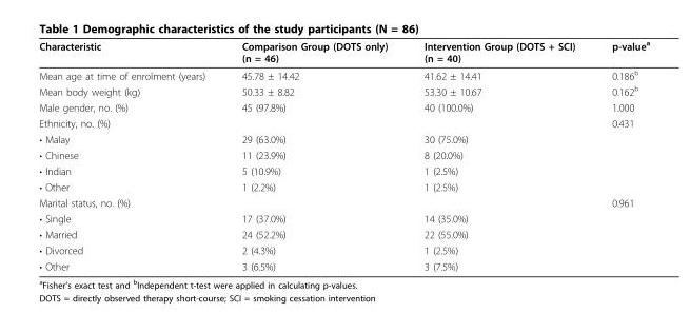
<table><thead><tr><td>Characteristic</td><td>Comparison Group (DOTS only) (n = 46)</td><td>Intervention Group (DOTS + SCI) (n = 40)</td><td>p-value<sup>a</sup></td></tr></thead><tbody><tr><td>Mean age at time of enrolment (years)</td><td>45.78 ± 14.42</td><td>41.62 ± 14.41</td><td>0.186<sup>b</sup></td></tr><tr><td>Mean body weight (kg)</td><td>50.33 ± 8.82</td><td>53.30 ± 10.67</td><td>0.162<sup>b</sup></td></tr><tr><td>Male gender, no. (%)</td><td>45 (97.8%)</td><td>40 (100.0%)</td><td>1.000</td></tr><tr><td>Ethnicity, no. (%)</td><td></td><td></td><td>0.431</td></tr><tr><td>• Malay</td><td>29 (63.0%)</td><td>30 (75.0%)</td><td></td></tr><tr><td>• Chinese</td><td>11 (23.9%)</td><td>8 (20.0%)</td><td></td></tr><tr><td>• Indian</td><td>5 (10.9%)</td><td>1 (2.5%)</td><td></td></tr><tr><td>• Other</td><td>1 (2.2%)</td><td>1 (2.5%)</td><td></td></tr><tr><td>Marital status, no. (%)</td><td></td><td></td><td>0.961</td></tr><tr><td>• Single</td><td>17 (37.0%)</td><td>14 (35.0%)</td><td></td></tr><tr><td>• Married</td><td>24 (52.2%)</td><td>22 (55.0%)</td><td></td></tr><tr><td>• Divorced</td><td>2 (4.3%)</td><td>1 (2.5%)</td><td></td></tr><tr><td>• Other</td><td>3 (6.5%)</td><td>3 (7.5%)</td><td></td></tr></tbody></table>